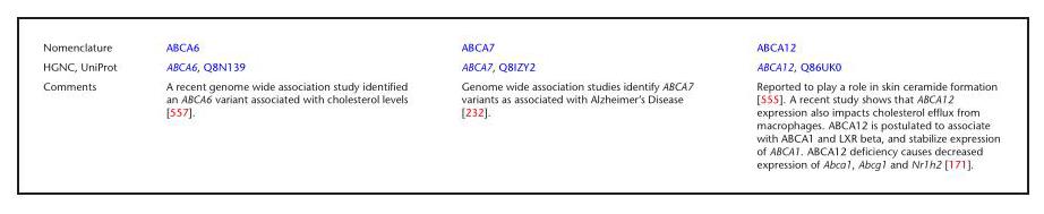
<table><tbody><tr><td>Nomenclature</td><td>ABCA6</td><td>ABCA7</td><td>ABCA12</td></tr><tr><td>HGNC, UniProt</td><td>ABCA6, Q8N139</td><td>ABCA7, Q8IZY2</td><td>ABCA12, Q86UK0</td></tr><tr><td>Comments</td><td>A recent genome wide association study identified an ABCA6 variant associated with cholesterol levels [557].</td><td>Genome wide association studies identify ABCA7 variants as associated with Alzheimer’s Disease [232].</td><td>Reported to play a role in skin ceramide formation [555]. A recent study shows that ABCA12 expression also impacts cholesterol efflux from macrophages. ABCA12 is postulated to associate with ABCA1 and LXR beta, and stabilize expression of ABCA1. ABCA12 deficiency causes decreased expression of Abca1, Abcg1 and Nr1h2 [171].</td></tr></tbody></table>